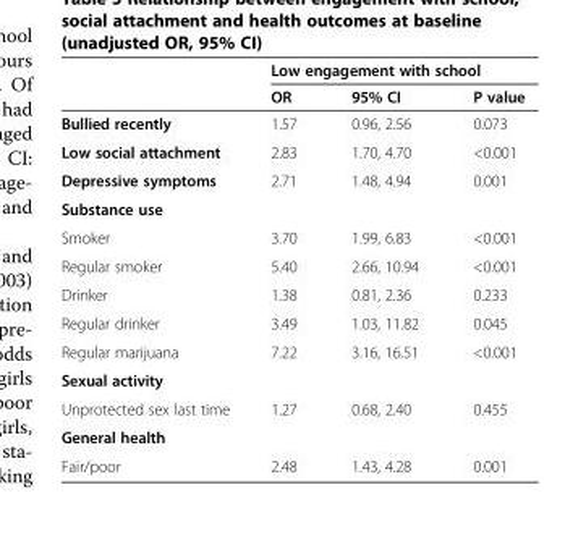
<table><thead><tr><td rowspan="2"></td><td colspan="3">Low engagement with school</td></tr><tr><td>OR</td><td>95% CI</td><td>P value</td></tr></thead><tbody><tr><td>Bullied recently</td><td>1.57</td><td>0.96, 2.56</td><td>0.073</td></tr><tr><td>Low social attachment</td><td>2.83</td><td>1.70, 4.70</td><td>&lt;0.001</td></tr><tr><td>Depressive symptoms</td><td>2.71</td><td>1.48, 4.94</td><td>0.001</td></tr><tr><td colspan="4">Substance use</td></tr><tr><td>Smoker</td><td>3.70</td><td>1.99, 6.83</td><td>&lt;0.001</td></tr><tr><td>Regular smoker</td><td>5.40</td><td>2.66, 10.94</td><td>&lt;0.001</td></tr><tr><td>Drinker</td><td>1.38</td><td>0.81, 2.36</td><td>0.233</td></tr><tr><td>Regular drinker</td><td>3.49</td><td>1.03, 11.82</td><td>0.045</td></tr><tr><td>Regular marijuana</td><td>7.22</td><td>3.16, 16.51</td><td>&lt;0.001</td></tr><tr><td colspan="4">Sexual activity</td></tr><tr><td>Unprotected sex last time</td><td>1.27</td><td>0.68, 2.40</td><td>0.455</td></tr><tr><td colspan="4">General health</td></tr><tr><td>Fair/poor</td><td>2.48</td><td>1.43, 4.28</td><td>0.001</td></tr></tbody></table>